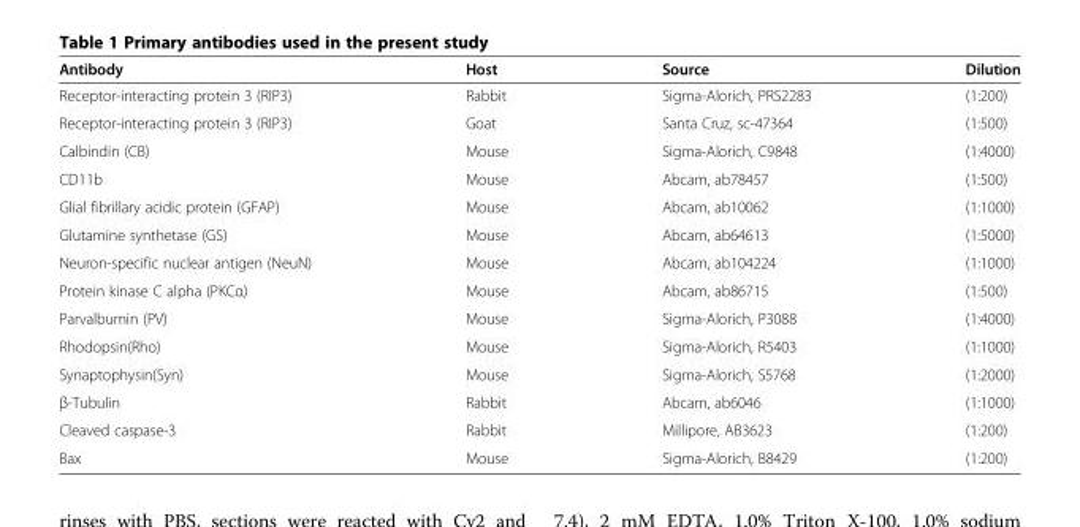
<table><thead><tr><td>Antibody</td><td>Host</td><td>Source</td><td>Dilution</td></tr></thead><tbody><tr><td>Receptor-interacting protein 3 (RIP3)</td><td>Rabbit</td><td>Sigma-Alorich, PRS2283</td><td>(1:200)</td></tr><tr><td>Receptor-interacting protein 3 (RIP3)</td><td>Goat</td><td>Santa Cruz, sc-47364</td><td>(1:500)</td></tr><tr><td>Calbindin (CB)</td><td>Mouse</td><td>Sigma-Alorich, C9848</td><td>(1:4000)</td></tr><tr><td>CD11b</td><td>Mouse</td><td>Abcam, ab78457</td><td>(1:500)</td></tr><tr><td>Glial fibrillary acidic protein (GFAP)</td><td>Mouse</td><td>Abcam, ab10062</td><td>(1:1000)</td></tr><tr><td>Glutamine synthetase (GS)</td><td>Mouse</td><td>Abcam, ab64613</td><td>(1:5000)</td></tr><tr><td>Neuron-specific nuclear antigen (NeuN)</td><td>Mouse</td><td>Abcam, ab104224</td><td>(1:1000)</td></tr><tr><td>Protein kinase C alpha (PKCα)</td><td>Mouse</td><td>Abcam, ab86715</td><td>(1:500)</td></tr><tr><td>Parvalbumin (PV)</td><td>Mouse</td><td>Sigma-Alorich, P3088</td><td>(1:4000)</td></tr><tr><td>Rhodopsin(Rho)</td><td>Mouse</td><td>Sigma-Alorich, R5403</td><td>(1:1000)</td></tr><tr><td>Synaptophysin(Syn)</td><td>Mouse</td><td>Sigma-Alorich, S5768</td><td>(1:2000)</td></tr><tr><td>β-Tubulin</td><td>Rabbit</td><td>Abcam, ab6046</td><td>(1:1000)</td></tr><tr><td>Cleaved caspase-3</td><td>Rabbit</td><td>Millipore, AB3623</td><td>(1:200)</td></tr><tr><td>Bax</td><td>Mouse</td><td>Sigma-Alorich, B8429</td><td>(1:200)</td></tr></tbody></table>